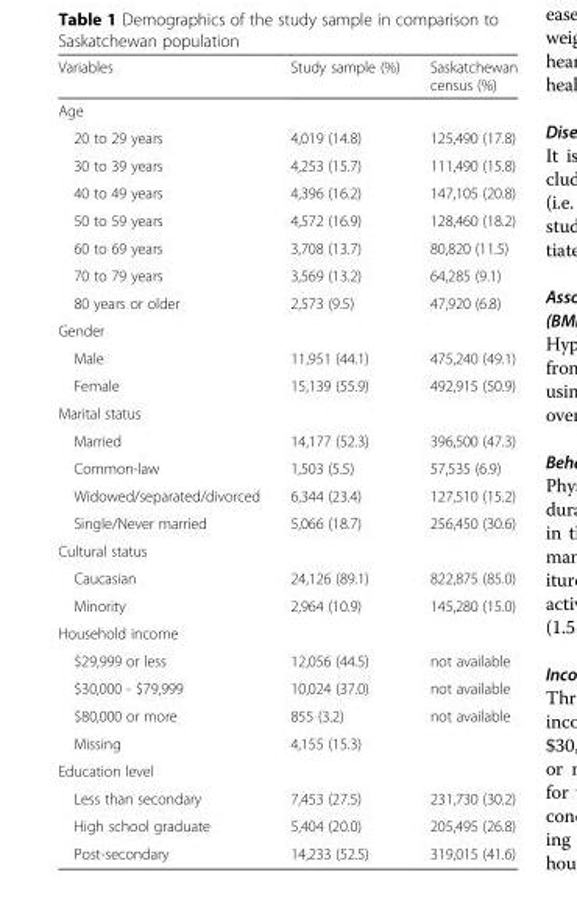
<table><thead><tr><td>Variables</td><td>Study sample (%)</td><td>Saskatchewan census (%)</td></tr></thead><tbody><tr><td colspan="3">Age</td></tr><tr><td>20 to 29 years</td><td>4,019 (14.8)</td><td>125,490 (17.8)</td></tr><tr><td>30 to 39 years</td><td>4,253 (15.7)</td><td>111,490 (15.8)</td></tr><tr><td>40 to 49 years</td><td>4,396 (16.2)</td><td>147,105 (20.8)</td></tr><tr><td>50 to 59 years</td><td>4,572 (16.9)</td><td>128,460 (18.2)</td></tr><tr><td>60 to 69 years</td><td>3,708 (13.7)</td><td>80,820 (11.5)</td></tr><tr><td>70 to 79 years</td><td>3,569 (13.2)</td><td>64,285 (9.1)</td></tr><tr><td>80 years or older</td><td>2,573 (9.5)</td><td>47,920 (6.8)</td></tr><tr><td colspan="3">Gender</td></tr><tr><td>Male</td><td>11,951 (44.1)</td><td>475,240 (49.1)</td></tr><tr><td>Female</td><td>15,139 (55.9)</td><td>492,915 (50.9)</td></tr><tr><td colspan="3">Marital status</td></tr><tr><td>Married</td><td>14,177 (52.3)</td><td>396,500 (47.3)</td></tr><tr><td>Common-law</td><td>1,503 (5.5)</td><td>57,535 (6.9)</td></tr><tr><td>Widowed/separated/divorced</td><td>6,344 (23.4)</td><td>127,510 (15.2)</td></tr><tr><td>Single/Never married</td><td>5,066 (18.7)</td><td>256,450 (30.6)</td></tr><tr><td colspan="3">Cultural status</td></tr><tr><td>Caucasian</td><td>24,126 (89.1)</td><td>822,875 (85.0)</td></tr><tr><td>Minority</td><td>2,964 (10.9)</td><td>145,280 (15.0)</td></tr><tr><td colspan="3">Household income</td></tr><tr><td>$29,999 or less</td><td>12,056 (44.5)</td><td>not available</td></tr><tr><td>$30,000 - $79,999</td><td>10,024 (37.0)</td><td>not available</td></tr><tr><td>$80,000 or more</td><td>855 (3.2)</td><td>not available</td></tr><tr><td>Missing</td><td>4,155 (15.3)</td><td></td></tr><tr><td colspan="3">Education level</td></tr><tr><td>Less than secondary</td><td>7,453 (27.5)</td><td>231,730 (30.2)</td></tr><tr><td>High school graduate</td><td>5,404 (20.0)</td><td>205,495 (26.8)</td></tr><tr><td>Post-secondary</td><td>14,233 (52.5)</td><td>319,015 (41.6)</td></tr></tbody></table>